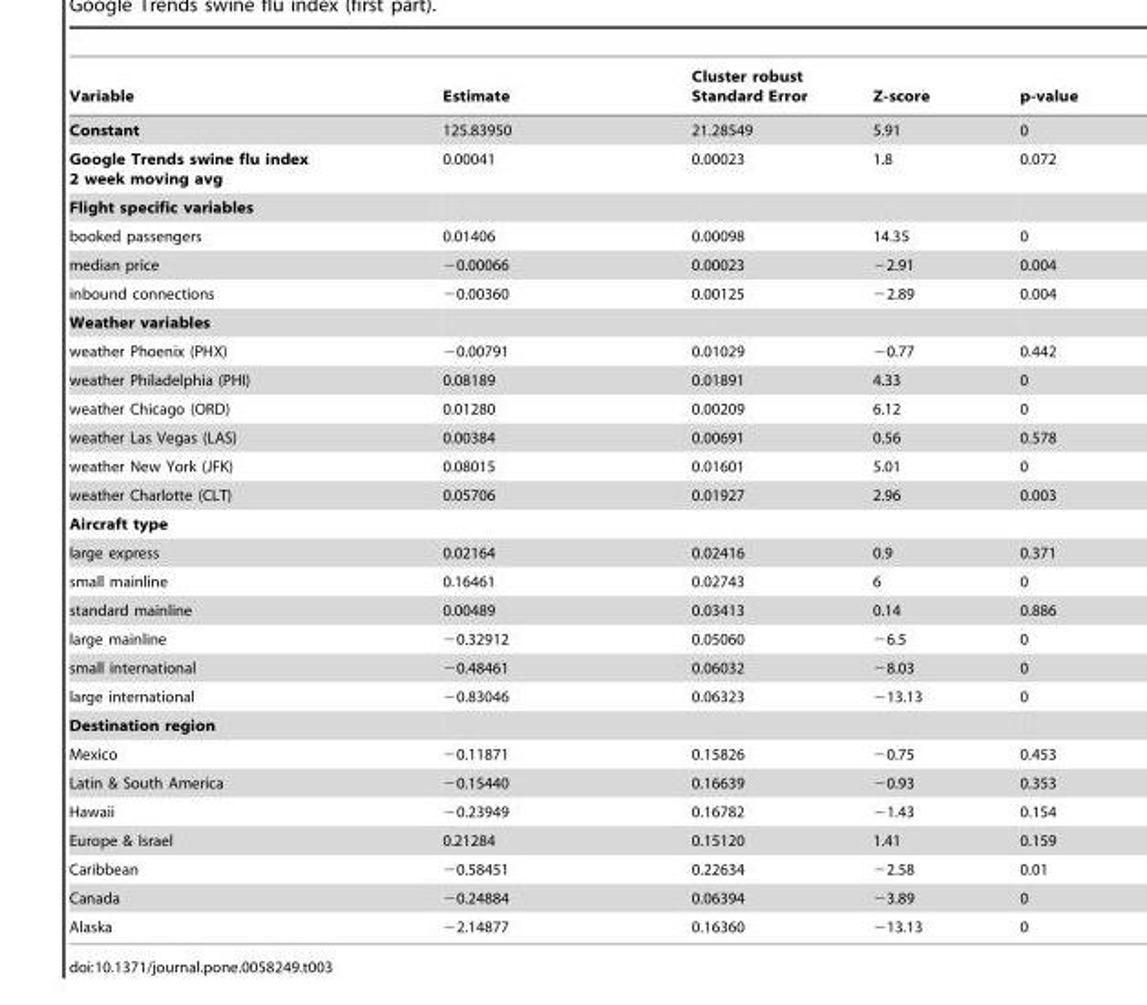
<table><thead><tr><td>Variable</td><td>Estimate</td><td>Cluster robust Standard Error</td><td>Z-score</td><td>p-value</td></tr></thead><tbody><tr><td>Constant</td><td>125.83950</td><td>21.28549</td><td>5.91</td><td>0</td></tr><tr><td>Google Trends swine flu index 2 week moving avg</td><td>0.00041</td><td>0.00023</td><td>1.8</td><td>0.072</td></tr><tr><td colspan="5">Flight specific variables</td></tr><tr><td>booked passengers</td><td>0.01406</td><td>0.00098</td><td>14.35</td><td>0</td></tr><tr><td>median price</td><td>−0.00066</td><td>0.00023</td><td>−2.91</td><td>0.004</td></tr><tr><td>inbound connections</td><td>−0.00360</td><td>0.00125</td><td>−2.89</td><td>0.004</td></tr><tr><td colspan="5">Weather variables</td></tr><tr><td>weather Phoenix (PHX)</td><td>−0.00791</td><td>0.01029</td><td>−0.77</td><td>0.442</td></tr><tr><td>weather Philadelphia (PHI)</td><td>0.08189</td><td>0.01891</td><td>4.33</td><td>0</td></tr><tr><td>weather Chicago (ORD)</td><td>0.01280</td><td>0.00209</td><td>6.12</td><td>0</td></tr><tr><td>weather Las Vegas (LAS)</td><td>0.00384</td><td>0.00691</td><td>0.56</td><td>0.578</td></tr><tr><td>weather New York (JFK)</td><td>0.08015</td><td>0.01601</td><td>5.01</td><td>0</td></tr><tr><td>weather Charlotte (CLT)</td><td>0.05706</td><td>0.01927</td><td>2.96</td><td>0.003</td></tr><tr><td colspan="5">Aircraft type</td></tr><tr><td>large express</td><td>0.02164</td><td>0.02416</td><td>0.9</td><td>0.371</td></tr><tr><td>small mainline</td><td>0.16461</td><td>0.02743</td><td>6</td><td>0</td></tr><tr><td>standard mainline</td><td>0.00489</td><td>0.03413</td><td>0.14</td><td>0.886</td></tr><tr><td>large mainline</td><td>−0.32912</td><td>0.05060</td><td>−6.5</td><td>0</td></tr><tr><td>small international</td><td>−0.48461</td><td>0.06032</td><td>−8.03</td><td>0</td></tr><tr><td>large international</td><td>−0.83046</td><td>0.06323</td><td>−13.13</td><td>0</td></tr><tr><td colspan="5">Destination region</td></tr><tr><td>Mexico</td><td>−0.11871</td><td>0.15826</td><td>−0.75</td><td>0.453</td></tr><tr><td>Latin &amp; South America</td><td>−0.15440</td><td>0.16639</td><td>−0.93</td><td>0.353</td></tr><tr><td>Hawaii</td><td>−0.23949</td><td>0.16782</td><td>−1.43</td><td>0.154</td></tr><tr><td>Europe &amp; Israel</td><td>0.21284</td><td>0.15120</td><td>1.41</td><td>0.159</td></tr><tr><td>Caribbean</td><td>−0.58451</td><td>0.22634</td><td>−2.58</td><td>0.01</td></tr><tr><td>Canada</td><td>−0.24884</td><td>0.06394</td><td>−3.89</td><td>0</td></tr><tr><td>Alaska</td><td>−2.14877</td><td>0.16360</td><td>−13.13</td><td>0</td></tr></tbody></table>